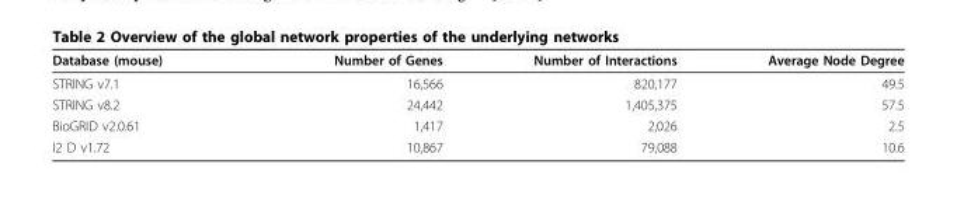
<table><thead><tr><td>Database (mouse)</td><td>Number of Genes</td><td>Number of Interactions</td><td>Average Node Degree</td></tr></thead><tbody><tr><td>STRING v7.1</td><td>16,566</td><td>820,177</td><td>49.5</td></tr><tr><td>STRING v8.2</td><td>24,442</td><td>1,405,375</td><td>57.5</td></tr><tr><td>BioGRID v2.0.61</td><td>1,417</td><td>2,026</td><td>2.5</td></tr><tr><td>I2 D v1.72</td><td>10,867</td><td>79,088</td><td>10.6</td></tr></tbody></table>